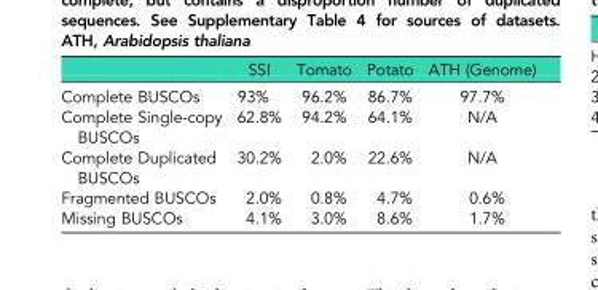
<table><thead><tr><td></td><td>SSI</td><td>Tomato</td><td>Potato</td><td>ATH (Genome)</td></tr></thead><tbody><tr><td>Complete BUSCOs</td><td>93%</td><td>96.2%</td><td>86.7%</td><td>97.7%</td></tr><tr><td>Complete Single-copy BUSCOs</td><td>62.8%</td><td>94.2%</td><td>64.1%</td><td>N/A</td></tr><tr><td>Complete Duplicated BUSCOs</td><td>30.2%</td><td>2.0%</td><td>22.6%</td><td>N/A</td></tr><tr><td>Fragmented BUSCOs</td><td>2.0%</td><td>0.8%</td><td>4.7%</td><td>0.6%</td></tr><tr><td>Missing BUSCOs</td><td>4.1%</td><td>3.0%</td><td>8.6%</td><td>1.7%</td></tr></tbody></table>